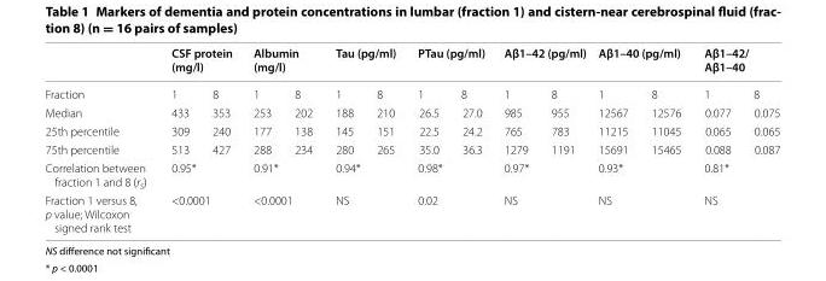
<table><thead><tr><td rowspan="2">Fraction</td><td colspan="2">CSF protein (mg/l)</td><td colspan="2">Albumin (mg/l)</td><td colspan="2">Tau (pg/ml)</td><td colspan="2">PTau (pg/ml)</td><td colspan="2">Aβ1–42 (pg/ml)</td><td colspan="2">Aβ1–40 (pg/ml)</td><td colspan="2">Aβ1–42/ Aβ1–40</td></tr><tr><td>1</td><td>8</td><td>1</td><td>8</td><td>1</td><td>8</td><td>1</td><td>8</td><td>1</td><td>8</td><td>1</td><td>8</td><td>1</td><td>8</td></tr></thead><tbody><tr><td>Median</td><td>433</td><td>353</td><td>253</td><td>202</td><td>188</td><td>210</td><td>26.5</td><td>27.0</td><td>985</td><td>955</td><td>12567</td><td>12576</td><td>0.077</td><td>0.075</td></tr><tr><td>25th percentile</td><td>309</td><td>240</td><td>177</td><td>138</td><td>145</td><td>151</td><td>22.5</td><td>24.2</td><td>765</td><td>783</td><td>11215</td><td>11045</td><td>0.065</td><td>0.065</td></tr><tr><td>75th percentile</td><td>513</td><td>427</td><td>288</td><td>234</td><td>280</td><td>265</td><td>35.0</td><td>36.3</td><td>1279</td><td>1191</td><td>15691</td><td>15465</td><td>0.088</td><td>0.087</td></tr><tr><td>Correlation between fraction 1 and 8 (r<sub>S</sub>)</td><td colspan="2">0.95*</td><td colspan="2">0.91*</td><td colspan="2">0.94*</td><td colspan="2">0.98*</td><td colspan="2">0.97*</td><td colspan="2">0.93*</td><td colspan="2">0.81*</td></tr><tr><td>Fraction 1 versus 8, p value; Wilcoxon signed rank test</td><td colspan="2">&lt;0.0001</td><td colspan="2">&lt;0.0001</td><td colspan="2">NS</td><td colspan="2">0.02</td><td colspan="2">NS</td><td colspan="2">NS</td><td colspan="2">NS</td></tr></tbody></table>